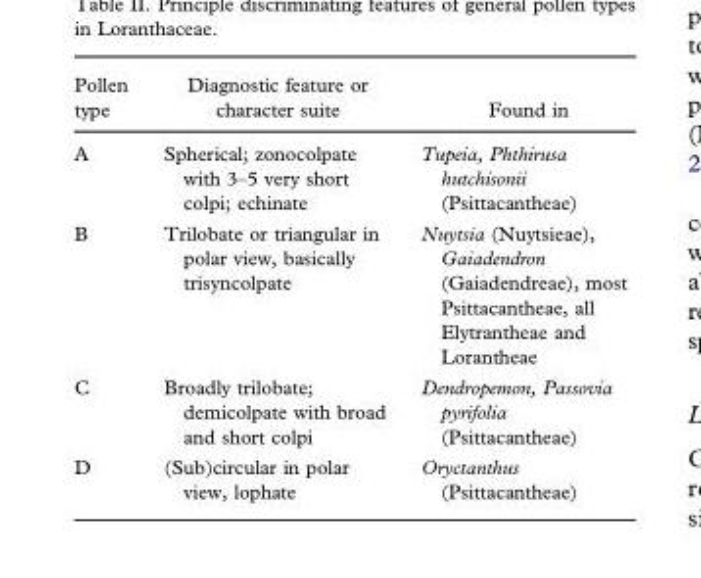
<table><thead><tr><td>Pollen type</td><td>Diagnostic feature or character suite</td><td>Found in</td></tr></thead><tbody><tr><td>A</td><td>Spherical; zonocolpate with 3–5 very short colpi; echinate</td><td>Tupeia, Phthirusa hutchisonii (Psittacantheae)</td></tr><tr><td>B</td><td>Trilobate or triangular in polar view, basically trisyncolpate</td><td>Nuytsia (Nuytsieae), Gaiadendron (Gaiadendreae), most Psittacantheae, all Elytrantheae and Lorantheae</td></tr><tr><td>C</td><td>Broadly trilobate; demicolpate with broad and short colpi</td><td>Dendropemon, Passovia pyrifolia (Psittacantheae)</td></tr><tr><td>D</td><td>(Sub)circular in polar view, lophate</td><td>Oryctanthus (Psittacantheae)</td></tr></tbody></table>